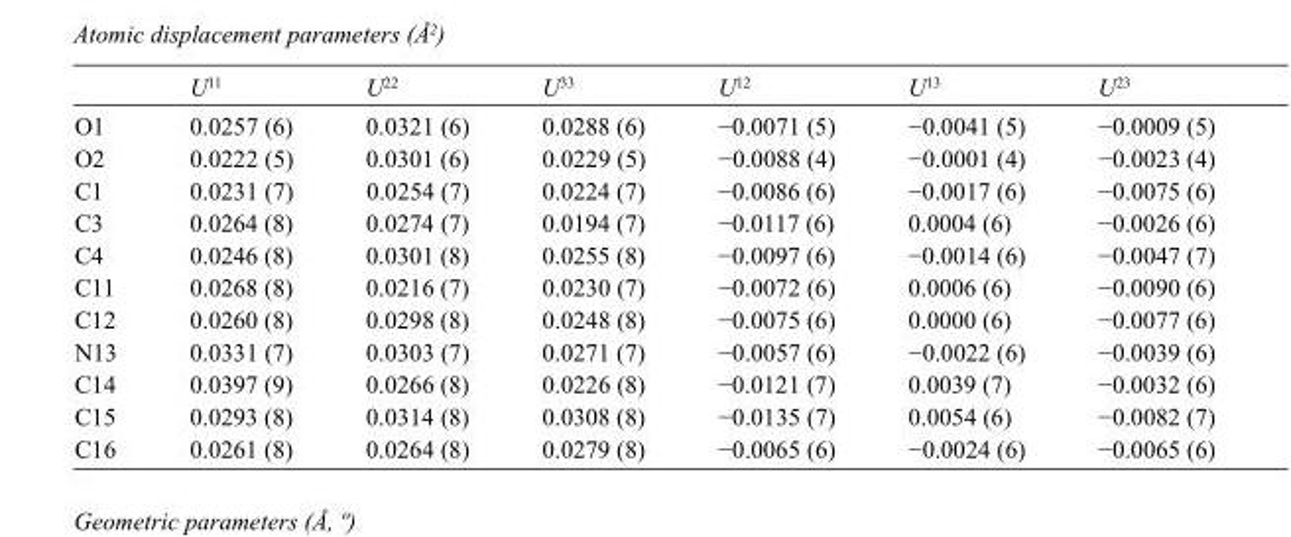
<table><thead><tr><td></td><td>U<sup>11</sup></td><td>U<sup>22</sup></td><td>U<sup>33</sup></td><td>U<sup>12</sup></td><td>U<sup>13</sup></td><td>U<sup>23</sup></td></tr></thead><tbody><tr><td>O1</td><td>0.0257 (6)</td><td>0.0321 (6)</td><td>0.0288 (6)</td><td>−0.0071 (5)</td><td>−0.0041 (5)</td><td>−0.0009 (5)</td></tr><tr><td>O2</td><td>0.0222 (5)</td><td>0.0301 (6)</td><td>0.0229 (5)</td><td>−0.0088 (4)</td><td>−0.0001 (4)</td><td>−0.0023 (4)</td></tr><tr><td>C1</td><td>0.0231 (7)</td><td>0.0254 (7)</td><td>0.0224 (7)</td><td>−0.0086 (6)</td><td>−0.0017 (6)</td><td>−0.0075 (6)</td></tr><tr><td>C3</td><td>0.0264 (8)</td><td>0.0274 (7)</td><td>0.0194 (7)</td><td>−0.0117 (6)</td><td>0.0004 (6)</td><td>−0.0026 (6)</td></tr><tr><td>C4</td><td>0.0246 (8)</td><td>0.0301 (8)</td><td>0.0255 (8)</td><td>−0.0097 (6)</td><td>−0.0014 (6)</td><td>−0.0047 (7)</td></tr><tr><td>C11</td><td>0.0268 (8)</td><td>0.0216 (7)</td><td>0.0230 (7)</td><td>−0.0072 (6)</td><td>0.0006 (6)</td><td>−0.0090 (6)</td></tr><tr><td>C12</td><td>0.0260 (8)</td><td>0.0298 (8)</td><td>0.0248 (8)</td><td>−0.0075 (6)</td><td>0.0000 (6)</td><td>−0.0077 (6)</td></tr><tr><td>N13</td><td>0.0331 (7)</td><td>0.0303 (7)</td><td>0.0271 (7)</td><td>−0.0057 (6)</td><td>−0.0022 (6)</td><td>−0.0039 (6)</td></tr><tr><td>C14</td><td>0.0397 (9)</td><td>0.0266 (8)</td><td>0.0226 (8)</td><td>−0.0121 (7)</td><td>0.0039 (7)</td><td>−0.0032 (6)</td></tr><tr><td>C15</td><td>0.0293 (8)</td><td>0.0314 (8)</td><td>0.0308 (8)</td><td>−0.0135 (7)</td><td>0.0054 (6)</td><td>−0.0082 (7)</td></tr><tr><td>C16</td><td>0.0261 (8)</td><td>0.0264 (8)</td><td>0.0279 (8)</td><td>−0.0065 (6)</td><td>−0.0024 (6)</td><td>−0.0065 (6)</td></tr></tbody></table>